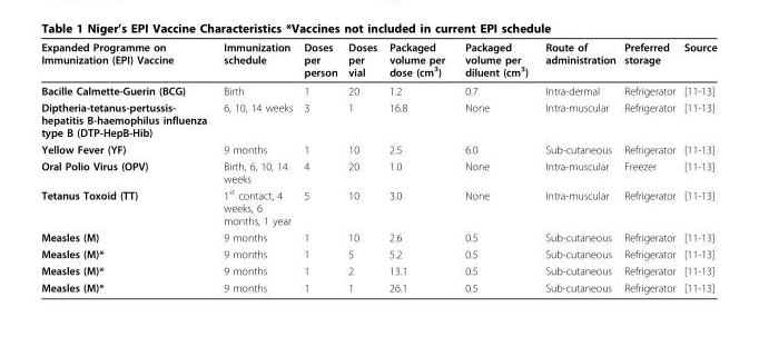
<table><thead><tr><td>Expanded Programme on Immunization (EPI) Vaccine</td><td>Immunization schedule</td><td>Doses per person</td><td>Doses per vial</td><td>Packaged volume per dose (cm<sup>3</sup>)</td><td>Packaged volume per diluent (cm<sup>3</sup>)</td><td>Route of administration</td><td>Preferred storage</td><td>Source</td></tr></thead><tbody><tr><td>Bacille Calmette-Guerin (BCG)</td><td>Birth</td><td>1</td><td>20</td><td>1.2</td><td>0.7</td><td>Intra-dermal</td><td>Refrigerator</td><td>[11-13]</td></tr><tr><td>Diptheria-tetanus-pertussis- hepatitis B-haemophilus influenza type B (DTP-HepB-Hib)</td><td>6, 10, 14 weeks</td><td>3</td><td>1</td><td>16.8</td><td>None</td><td>Intra-muscular</td><td>Refrigerator</td><td>[11-13]</td></tr><tr><td>Yellow Fever (YF)</td><td>9 months</td><td>1</td><td>10</td><td>2.5</td><td>6.0</td><td>Sub-cutaneous</td><td>Refrigerator</td><td>[11-13]</td></tr><tr><td>Oral Polio Virus (OPV)</td><td>Birth, 6, 10, 14 weeks</td><td>4</td><td>20</td><td>1.0</td><td>None</td><td>Intra-muscular</td><td>Freezer</td><td>[11-13]</td></tr><tr><td>Tetanus Toxoid (TT)</td><td>1<sup>st</sup> contact, 4 weeks, 6 months, 1 year</td><td>5</td><td>10</td><td>3.0</td><td>None</td><td>Intra-muscular</td><td>Refrigerator</td><td>[11-13]</td></tr><tr><td>Measles (M)</td><td>9 months</td><td>1</td><td>10</td><td>2.6</td><td>0.5</td><td>Sub-cutaneous</td><td>Refrigerator</td><td>[11-13]</td></tr><tr><td>Measles (M)*</td><td>9 months</td><td>1</td><td>5</td><td>5.2</td><td>0.5</td><td>Sub-cutaneous</td><td>Refrigerator</td><td>[11-13]</td></tr><tr><td>Measles (M)*</td><td>9 months</td><td>1</td><td>2</td><td>13.1</td><td>0.5</td><td>Sub-cutaneous</td><td>Refrigerator</td><td>[11-13]</td></tr><tr><td>Measles (M)*</td><td>9 months</td><td>1</td><td>1</td><td>26.1</td><td>0.5</td><td>Sub-cutaneous</td><td>Refrigerator</td><td>[11-13]</td></tr></tbody></table>